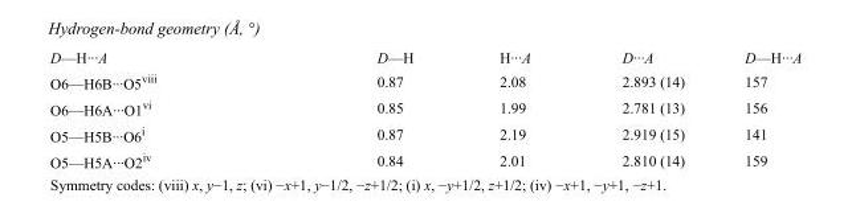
<table><tbody><tr><td>D—H···A</td><td>D—H</td><td>H···A</td><td>D···A</td><td>D—H···A</td></tr><tr><td>O6—H6B···O5<sup>viii</sup></td><td>0.87</td><td>2.08</td><td>2.893 (14)</td><td>157</td></tr><tr><td>O6—H6A···O1<sup>vi</sup></td><td>0.85</td><td>1.99</td><td>2.781 (13)</td><td>156</td></tr><tr><td>O5—H5B···O6<sup>i</sup></td><td>0.87</td><td>2.19</td><td>2.919 (15)</td><td>141</td></tr><tr><td>O5—H5A···O2<sup>iv</sup></td><td>0.84</td><td>2.01</td><td>2.810 (14)</td><td>159</td></tr></tbody></table>